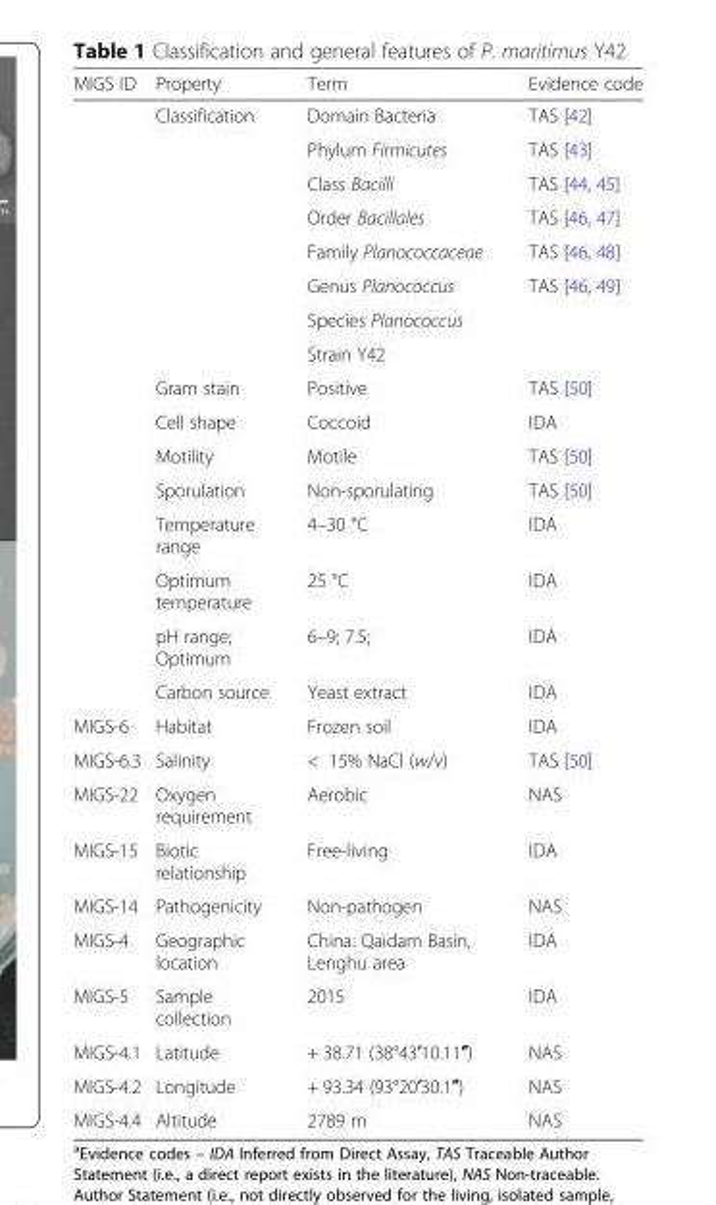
<table><thead><tr><td>MIGS ID</td><td>Property</td><td>Term</td><td>Evidence code</td></tr></thead><tbody><tr><td></td><td>Classification</td><td>Domain Bacteria</td><td>TAS [42]</td></tr><tr><td></td><td></td><td>Phylum Firmicutes</td><td>TAS [43]</td></tr><tr><td></td><td></td><td>Class Bacilli</td><td>TAS [44, 45]</td></tr><tr><td></td><td></td><td>Order Bacillales</td><td>TAS [46, 47]</td></tr><tr><td></td><td></td><td>Family Planococcaceae</td><td>TAS [46, 48]</td></tr><tr><td></td><td></td><td>Genus Planococcus</td><td>TAS [46, 49]</td></tr><tr><td></td><td></td><td>Species Planococcus</td><td></td></tr><tr><td></td><td></td><td>Strain Y42</td><td></td></tr><tr><td></td><td>Gram stain</td><td>Positive</td><td>TAS [50]</td></tr><tr><td></td><td>Cell shape</td><td>Coccoid</td><td>IDA</td></tr><tr><td></td><td>Motility</td><td>Motile</td><td>TAS [50]</td></tr><tr><td></td><td>Sporulation</td><td>Non-sporulating</td><td>TAS [50]</td></tr><tr><td></td><td>Temperature range</td><td>4–30 °C</td><td>IDA</td></tr><tr><td></td><td>Optimum temperature</td><td>25 °C</td><td>IDA</td></tr><tr><td></td><td>pH range; Optimum</td><td>6–9; 7.5;</td><td>IDA</td></tr><tr><td></td><td>Carbon source</td><td>Yeast extract</td><td>IDA</td></tr><tr><td>MIGS-6</td><td>Habitat</td><td>Frozen soil</td><td>IDA</td></tr><tr><td>MIGS-6.3</td><td>Salinity</td><td>&lt; 15% NaCl (w/v)</td><td>TAS [50]</td></tr><tr><td>MIGS-22</td><td>Oxygen requirement</td><td>Aerobic</td><td>NAS</td></tr><tr><td>MIGS-15</td><td>Biotic relationship</td><td>Free-living</td><td>IDA</td></tr><tr><td>MIGS-14</td><td>Pathogenicity</td><td>Non-pathogen</td><td>NAS</td></tr><tr><td>MIGS-4</td><td>Geographic location</td><td>China: Qaidam Basin, Lenghu area</td><td>IDA</td></tr><tr><td>MIGS-5</td><td>Sample collection</td><td>2015</td><td>IDA</td></tr><tr><td>MIGS-4.1</td><td>Latitude</td><td>+ 38.71 (38°43′10.11″)</td><td>NAS</td></tr><tr><td>MIGS-4.2</td><td>Longitude</td><td>+ 93.34 (93°20′30.1″)</td><td>NAS</td></tr><tr><td>MIGS-4.4</td><td>Altitude</td><td>2789 m</td><td>NAS</td></tr></tbody></table>